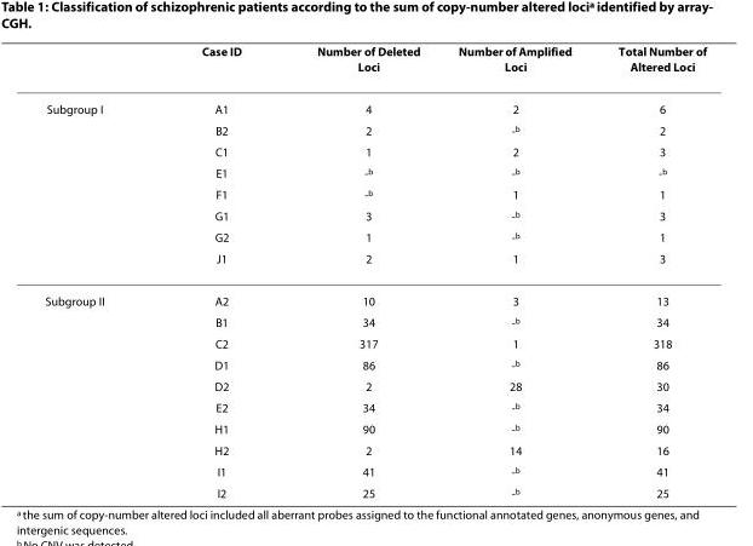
<table><thead><tr><td></td><td>Case ID</td><td>Number of Deleted Loci</td><td>Number of Amplified Loci</td><td>Total Number of Altered Loci</td></tr></thead><tbody><tr><td rowspan="8">Subgroup I</td><td>A1</td><td>4</td><td>2</td><td>6</td></tr><tr><td>B2</td><td>2</td><td>-<sup>b</sup></td><td>2</td></tr><tr><td>C1</td><td>1</td><td>2</td><td>3</td></tr><tr><td>E1</td><td>-<sup>b</sup></td><td>-<sup>b</sup></td><td>-<sup>b</sup></td></tr><tr><td>F1</td><td>-<sup>b</sup></td><td>1</td><td>1</td></tr><tr><td>G1</td><td>3</td><td>-<sup>b</sup></td><td>3</td></tr><tr><td>G2</td><td>1</td><td>-<sup>b</sup></td><td>1</td></tr><tr><td>J1</td><td>2</td><td>1</td><td>3</td></tr><tr><td rowspan="10">Subgroup II</td><td>A2</td><td>10</td><td>3</td><td>13</td></tr><tr><td>B1</td><td>34</td><td>-<sup>b</sup></td><td>34</td></tr><tr><td>C2</td><td>317</td><td>1</td><td>318</td></tr><tr><td>D1</td><td>86</td><td>-<sup>b</sup></td><td>86</td></tr><tr><td>D2</td><td>2</td><td>28</td><td>30</td></tr><tr><td>E2</td><td>34</td><td>-<sup>b</sup></td><td>34</td></tr><tr><td>H1</td><td>90</td><td>-<sup>b</sup></td><td>90</td></tr><tr><td>H2</td><td>2</td><td>14</td><td>16</td></tr><tr><td>I1</td><td>41</td><td>-<sup>b</sup></td><td>41</td></tr><tr><td>I2</td><td>25</td><td>-<sup>b</sup></td><td>25</td></tr></tbody></table>